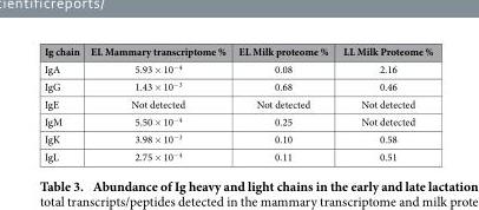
<table><thead><tr><td>Ig chain</td><td>EL Mammary transcriptome %</td><td>EL Milk proteome %</td><td>LL Milk Proteome %</td></tr></thead><tbody><tr><td>IgA</td><td>5.93 × 10<sup>−4</sup></td><td>0.08</td><td>2.16</td></tr><tr><td>IgG</td><td>1.43 × 10<sup>−3</sup></td><td>0.68</td><td>0.46</td></tr><tr><td>IgE</td><td>Not detected</td><td>Not detected</td><td>Not detected</td></tr><tr><td>IgM</td><td>5.50 × 10<sup>−4</sup></td><td>0.25</td><td>Not detected</td></tr><tr><td>IgK</td><td>3.98 × 10<sup>−3</sup></td><td>0.10</td><td>0.58</td></tr><tr><td>IgL</td><td>2.75 × 10<sup>−4</sup></td><td>0.11</td><td>0.51</td></tr></tbody></table>